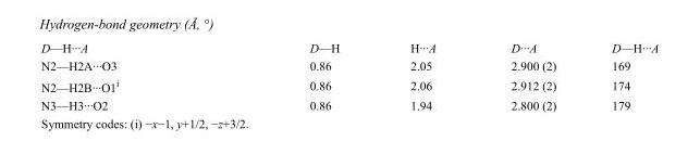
<table><tbody><tr><td>D—H···A</td><td>D—H</td><td>H···A</td><td>D···A</td><td>D—H···A</td></tr><tr><td>N2—H2A···O3</td><td>0.86</td><td>2.05</td><td>2.900 (2)</td><td>169</td></tr><tr><td>N2—H2B···O1<sup>i</sup></td><td>0.86</td><td>2.06</td><td>2.912 (2)</td><td>174</td></tr><tr><td>N3—H3···O2</td><td>0.86</td><td>1.94</td><td>2.800 (2)</td><td>179</td></tr></tbody></table>